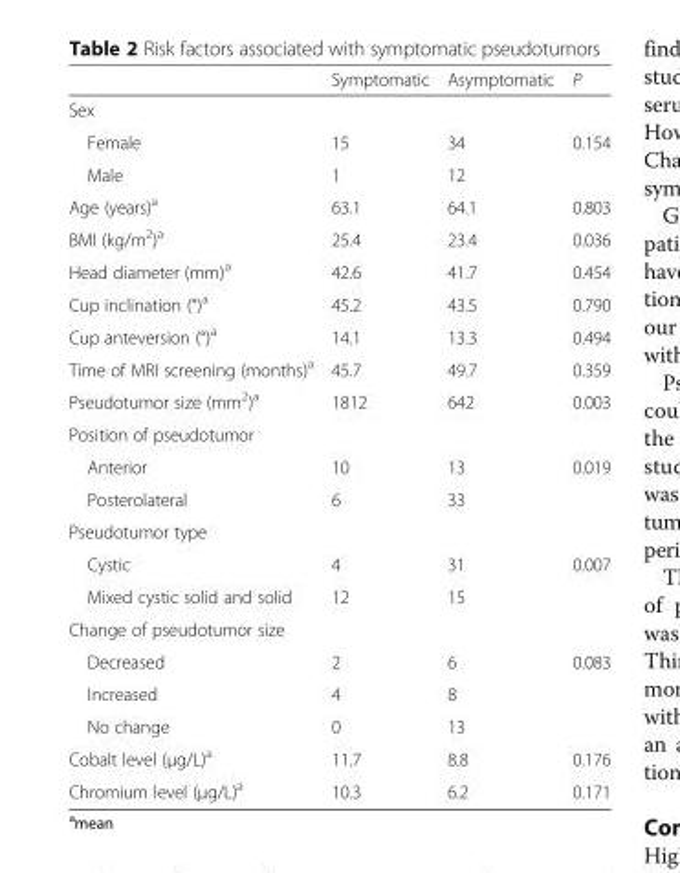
<table><thead><tr><td></td><td>Symptomatic</td><td>Asymptomatic</td><td>P</td></tr></thead><tbody><tr><td colspan="4">Sex</td></tr><tr><td>Female</td><td>15</td><td>34</td><td rowspan="2">0.154</td></tr><tr><td>Male</td><td>1</td><td>12</td></tr><tr><td>Age (years)<sup>a</sup></td><td>63.1</td><td>64.1</td><td>0.803</td></tr><tr><td>BMI (kg/m<sup>2</sup>)<sup>a</sup></td><td>25.4</td><td>23.4</td><td>0.036</td></tr><tr><td>Head diameter (mm)<sup>a</sup></td><td>42.6</td><td>41.7</td><td>0.454</td></tr><tr><td>Cup inclination (°)<sup>a</sup></td><td>45.2</td><td>43.5</td><td>0.790</td></tr><tr><td>Cup anteversion (°)<sup>a</sup></td><td>14.1</td><td>13.3</td><td>0.494</td></tr><tr><td>Time of MRI screening (months)<sup>a</sup></td><td>45.7</td><td>49.7</td><td>0.359</td></tr><tr><td>Pseudotumor size (mm<sup>2</sup>)<sup>a</sup></td><td>1812</td><td>642</td><td>0.003</td></tr><tr><td colspan="4">Position of pseudotumor</td></tr><tr><td>Anterior</td><td>10</td><td>13</td><td rowspan="2">0.019</td></tr><tr><td>Posterolateral</td><td>6</td><td>33</td></tr><tr><td colspan="4">Pseudotumor type</td></tr><tr><td>Cystic</td><td>4</td><td>31</td><td rowspan="2">0.007</td></tr><tr><td>Mixed cystic solid and solid</td><td>12</td><td>15</td></tr><tr><td colspan="4">Change of pseudotumor size</td></tr><tr><td>Decreased</td><td>2</td><td>6</td><td rowspan="3">0.083</td></tr><tr><td>Increased</td><td>4</td><td>8</td></tr><tr><td>No change</td><td>0</td><td>13</td></tr><tr><td>Cobalt level (μg/L)<sup>a</sup></td><td>11.7</td><td>8.8</td><td>0.176</td></tr><tr><td>Chromium level (μg/L)<sup>a</sup></td><td>10.3</td><td>6.2</td><td>0.171</td></tr></tbody></table>